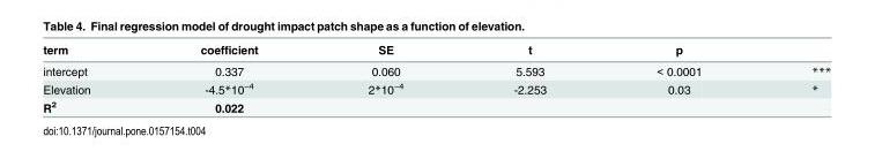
<table><thead><tr><td>term</td><td>coefficient</td><td>SE</td><td>t</td><td>p</td><td></td></tr></thead><tbody><tr><td>intercept</td><td>0.337</td><td>0.060</td><td>5.593</td><td>&lt; 0.0001</td><td>***</td></tr><tr><td>Elevation</td><td>-4.5*10<sup>−4</sup></td><td>2*10<sup>−4</sup></td><td>-2.253</td><td>0.03</td><td>*</td></tr><tr><td>R<sup>2</sup></td><td>0.022</td><td></td><td></td><td></td><td></td></tr></tbody></table>